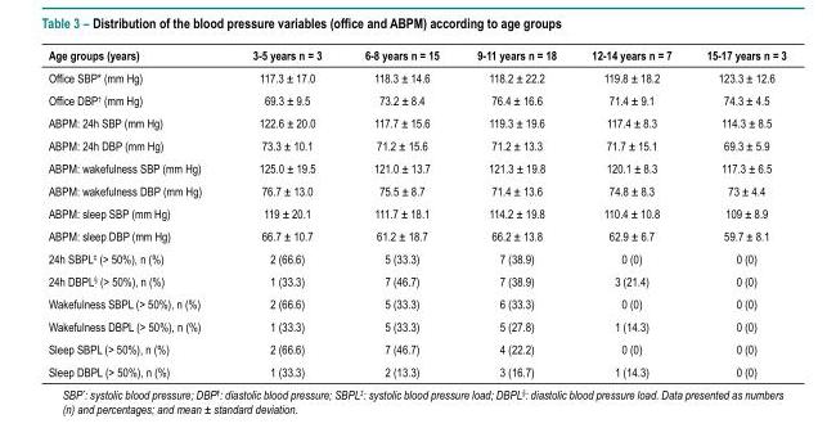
<table><thead><tr><td>Age groups (years)</td><td>3-5 years n = 3</td><td>6-8 years n = 15</td><td>9-11 years n = 18</td><td>12-14 years n = 7</td><td>15-17 years n = 3</td></tr></thead><tbody><tr><td>Office SBP* (mm Hg)</td><td>117.3 ± 17.0</td><td>118.3 ± 14.6</td><td>118.2 ± 22.2</td><td>119.8 ± 18.2</td><td>123.3 ± 12.6</td></tr><tr><td>Office DBP<sup>†</sup> (mm Hg)</td><td>69.3 ± 9.5</td><td>73.2 ± 8.4</td><td>76.4 ± 16.6</td><td>71.4 ± 9.1</td><td>74.3 ± 4.5</td></tr><tr><td>ABPM: 24h SBP (mm Hg)</td><td>122.6 ± 20.0</td><td>117.7 ± 15.6</td><td>119.3 ± 19.6</td><td>117.4 ± 8.3</td><td>114.3 ± 8.5</td></tr><tr><td>ABPM: 24h DBP (mm Hg)</td><td>73.3 ± 10.1</td><td>71.2 ± 15.6</td><td>71.2 ± 13.3</td><td>71.7 ± 15.1</td><td>69.3 ± 5.9</td></tr><tr><td>ABPM: wakefulness SBP (mm Hg)</td><td>125.0 ± 19.5</td><td>121.0 ± 13.7</td><td>121.3 ± 19.8</td><td>120.1 ± 8.3</td><td>117.3 ± 6.5</td></tr><tr><td>ABPM: wakefulness DBP (mm Hg)</td><td>76.7 ± 13.0</td><td>75.5 ± 8.7</td><td>71.4 ± 13.6</td><td>74.8 ± 8.3</td><td>73 ± 4.4</td></tr><tr><td>ABPM: sleep SBP (mm Hg)</td><td>119 ± 20.1</td><td>111.7 ± 18.1</td><td>114.2 ± 19.8</td><td>110.4 ± 10.8</td><td>109 ± 8.9</td></tr><tr><td>ABPM: sleep DBP (mm Hg)</td><td>66.7 ± 10.7</td><td>61.2 ± 18.7</td><td>66.2 ± 13.8</td><td>62.9 ± 6.7</td><td>59.7 ± 8.1</td></tr><tr><td>24h SBPL<sup>‡</sup> (&gt; 50%), n (%)</td><td>2 (66.6)</td><td>5 (33.3)</td><td>7 (38.9)</td><td>0 (0)</td><td>0 (0)</td></tr><tr><td>24h DBPL<sup>§</sup> (&gt; 50%), n (%)</td><td>1 (33.3)</td><td>7 (46.7)</td><td>7 (38.9)</td><td>3 (21.4)</td><td>0 (0)</td></tr><tr><td>Wakefulness SBPL (&gt; 50%), n (%)</td><td>2 (66.6)</td><td>5 (33.3)</td><td>6 (33.3)</td><td>0 (0)</td><td>0 (0)</td></tr><tr><td>Wakefulness DBPL (&gt; 50%), n (%)</td><td>1 (33.3)</td><td>5 (33.3)</td><td>5 (27.8)</td><td>1 (14.3)</td><td>0 (0)</td></tr><tr><td>Sleep SBPL (&gt; 50%), n (%)</td><td>2 (66.6)</td><td>7 (46.7)</td><td>4 (22.2)</td><td>0 (0)</td><td>0 (0)</td></tr><tr><td>Sleep DBPL (&gt; 50%), n (%)</td><td>1 (33.3)</td><td>2 (13.3)</td><td>3 (16.7)</td><td>1 (14.3)</td><td>0 (0)</td></tr></tbody></table>